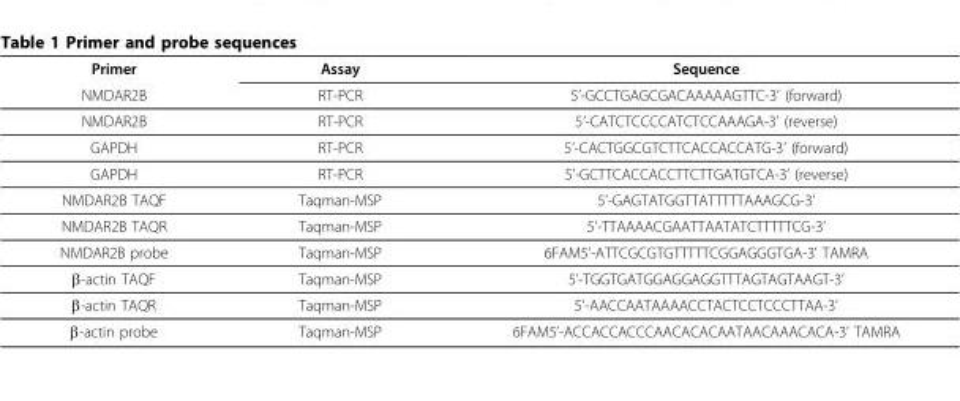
<table><thead><tr><td rowspan="2">Primer NMDAR2B</td><td rowspan="2">Assay RT-PCR</td><td rowspan="2">Sequence 5’-GCCTGAGCGACAAAAAGTTC-3’ (forward)</td></tr><tr></tr></thead><tbody><tr><td>NMDAR2B</td><td>RT-PCR</td><td>5’-CATCTCCCCATCTCCAAAGA-3’ (reverse)</td></tr><tr><td>GAPDH</td><td>RT-PCR</td><td>5’-CACTGGCGTCTTCACCACCATG-3’ (forward)</td></tr><tr><td>GAPDH</td><td>RT-PCR</td><td>5’-GCTTCACCACCTTCTTGATGTCA-3’ (reverse)</td></tr><tr><td>NMDAR2B TAQF</td><td>Taqman-MSP</td><td>5’-GAGTATGGTTATTTTTAAAGCG-3’</td></tr><tr><td>NMDAR2B TAQR</td><td>Taqman-MSP</td><td>5’-TTAAAACGAATTAATATCTTTTTCG-3’</td></tr><tr><td>NMDAR2B probe</td><td>Taqman-MSP</td><td>6FAM5’-ATTCGCGTGTTTTTCGGAGGGTGA-3’ TAMRA</td></tr><tr><td>β-actin TAQF</td><td>Taqman-MSP</td><td>5’-TGGTGATGGAGGAGGTTTAGTAGTAAGT-3’</td></tr><tr><td>β-actin TAQR</td><td>Taqman-MSP</td><td>5’-AACCAATAAAACCTACTCCTCCCTTAA-3’</td></tr><tr><td>β-actin probe</td><td>Taqman-MSP</td><td>6FAM5’-ACCACCACCCAACACACAATAACAAACACA-3’ TAMRA</td></tr></tbody></table>